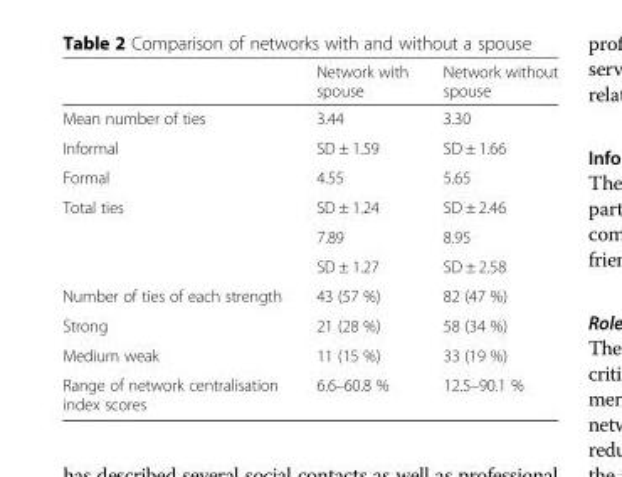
<table><thead><tr><td></td><td>Network with spouse</td><td>Network without spouse</td></tr></thead><tbody><tr><td>Mean number of ties</td><td>3.44</td><td>3.30</td></tr><tr><td>Informal</td><td>SD ± 1.59</td><td>SD ± 1.66</td></tr><tr><td>Formal</td><td>4.55</td><td>5.65</td></tr><tr><td rowspan="3">Total ties</td><td>SD ± 1.24</td><td>SD ± 2.46</td></tr><tr><td>7.89</td><td>8.95</td></tr><tr><td>SD ± 1.27</td><td>SD ± 2.58</td></tr><tr><td>Number of ties of each strength</td><td>43 (57 %)</td><td>82 (47 %)</td></tr><tr><td>Strong</td><td>21 (28 %)</td><td>58 (34 %)</td></tr><tr><td>Medium weak</td><td>11 (15 %)</td><td>33 (19 %)</td></tr><tr><td>Range of network centralisation index scores</td><td>6.6–60.8 %</td><td>12.5–90.1 %</td></tr></tbody></table>